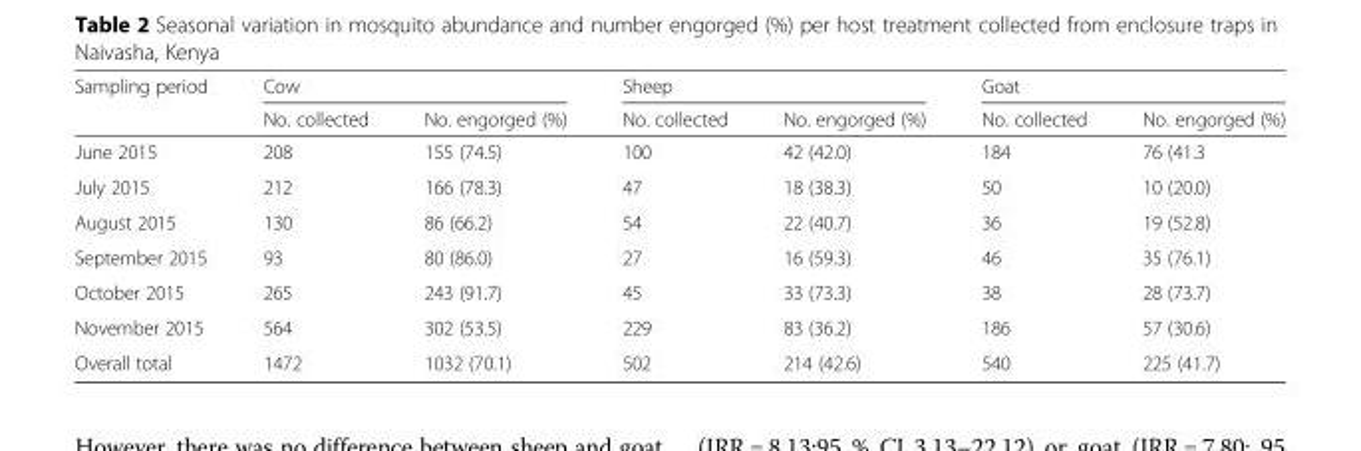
<table><thead><tr><td rowspan="2">Sampling period</td><td colspan="2">Cow</td><td colspan="2">Sheep</td><td colspan="2">Goat</td></tr><tr><td>No. collected</td><td>No. engorged (%)</td><td>No. collected</td><td>No. engorged (%)</td><td>No. collected</td><td>No. engorged (%)</td></tr></thead><tbody><tr><td>June 2015</td><td>208</td><td>155 (74.5)</td><td>100</td><td>42 (42.0)</td><td>184</td><td>76 (41.3</td></tr><tr><td>July 2015</td><td>212</td><td>166 (78.3)</td><td>47</td><td>18 (38.3)</td><td>50</td><td>10 (20.0)</td></tr><tr><td>August 2015</td><td>130</td><td>86 (66.2)</td><td>54</td><td>22 (40.7)</td><td>36</td><td>19 (52.8)</td></tr><tr><td>September 2015</td><td>93</td><td>80 (86.0)</td><td>27</td><td>16 (59.3)</td><td>46</td><td>35 (76.1)</td></tr><tr><td>October 2015</td><td>265</td><td>243 (91.7)</td><td>45</td><td>33 (73.3)</td><td>38</td><td>28 (73.7)</td></tr><tr><td>November 2015</td><td>564</td><td>302 (53.5)</td><td>229</td><td>83 (36.2)</td><td>186</td><td>57 (30.6)</td></tr><tr><td>Overall total</td><td>1472</td><td>1032 (70.1)</td><td>502</td><td>214 (42.6)</td><td>540</td><td>225 (41.7)</td></tr></tbody></table>